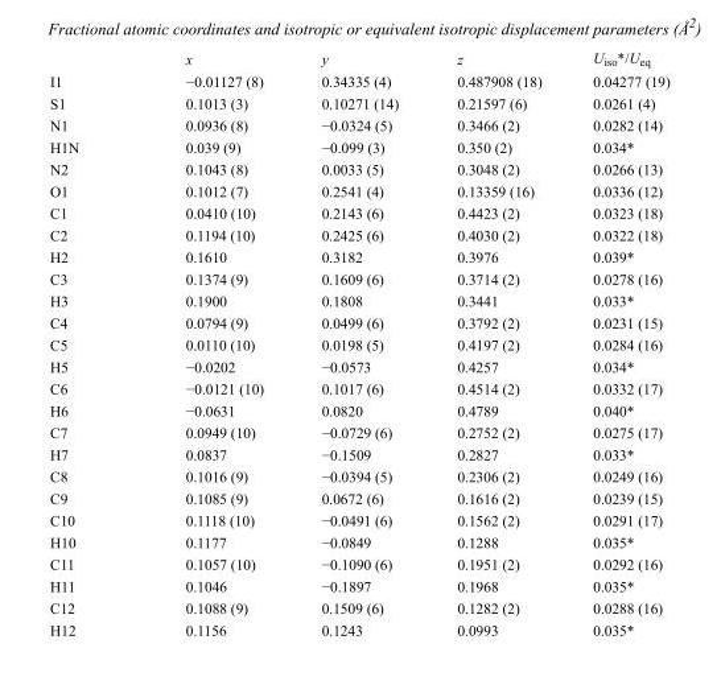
<table><thead><tr><td></td><td>x</td><td>y</td><td>z</td><td>U<sub>iso</sub>*/U<sub>eq</sub></td></tr></thead><tbody><tr><td>I1</td><td>−0.01127 (8)</td><td>0.34335 (4)</td><td>0.487908 (18)</td><td>0.04277 (19)</td></tr><tr><td>S1</td><td>0.1013 (3)</td><td>0.10271 (14)</td><td>0.21597 (6)</td><td>0.0261 (4)</td></tr><tr><td>N1</td><td>0.0936 (8)</td><td>−0.0324 (5)</td><td>0.3466 (2)</td><td>0.0282 (14)</td></tr><tr><td>H1N</td><td>0.039 (9)</td><td>−0.099 (3)</td><td>0.350 (2)</td><td>0.034*</td></tr><tr><td>N2</td><td>0.1043 (8)</td><td>0.0033 (5)</td><td>0.3048 (2)</td><td>0.0266 (13)</td></tr><tr><td>O1</td><td>0.1012 (7)</td><td>0.2541 (4)</td><td>0.13359 (16)</td><td>0.0336 (12)</td></tr><tr><td>C1</td><td>0.0410 (10)</td><td>0.2143 (6)</td><td>0.4423 (2)</td><td>0.0323 (18)</td></tr><tr><td>C2</td><td>0.1194 (10)</td><td>0.2425 (6)</td><td>0.4030 (2)</td><td>0.0322 (18)</td></tr><tr><td>H2</td><td>0.1610</td><td>0.3182</td><td>0.3976</td><td>0.039*</td></tr><tr><td>C3</td><td>0.1374 (9)</td><td>0.1609 (6)</td><td>0.3714 (2)</td><td>0.0278 (16)</td></tr><tr><td>H3</td><td>0.1900</td><td>0.1808</td><td>0.3441</td><td>0.033*</td></tr><tr><td>C4</td><td>0.0794 (9)</td><td>0.0499 (6)</td><td>0.3792 (2)</td><td>0.0231 (15)</td></tr><tr><td>C5</td><td>0.0110 (10)</td><td>0.0198 (5)</td><td>0.4197 (2)</td><td>0.0284 (16)</td></tr><tr><td>H5</td><td>−0.0202</td><td>−0.0573</td><td>0.4257</td><td>0.034*</td></tr><tr><td>C6</td><td>−0.0121 (10)</td><td>0.1017 (6)</td><td>0.4514 (2)</td><td>0.0332 (17)</td></tr><tr><td>H6</td><td>−0.0631</td><td>0.0820</td><td>0.4789</td><td>0.040*</td></tr><tr><td>C7</td><td>0.0949 (10)</td><td>−0.0729 (6)</td><td>0.2752 (2)</td><td>0.0275 (17)</td></tr><tr><td>H7</td><td>0.0837</td><td>−0.1509</td><td>0.2827</td><td>0.033*</td></tr><tr><td>C8</td><td>0.1016 (9)</td><td>−0.0394 (5)</td><td>0.2306 (2)</td><td>0.0249 (16)</td></tr><tr><td>C9</td><td>0.1085 (9)</td><td>0.0672 (6)</td><td>0.1616 (2)</td><td>0.0239 (15)</td></tr><tr><td>C10</td><td>0.1118 (10)</td><td>−0.0491 (6)</td><td>0.1562 (2)</td><td>0.0291 (17)</td></tr><tr><td>H10</td><td>0.1177</td><td>−0.0849</td><td>0.1288</td><td>0.035*</td></tr><tr><td>C11</td><td>0.1057 (10)</td><td>−0.1090 (6)</td><td>0.1951 (2)</td><td>0.0292 (16)</td></tr><tr><td>H11</td><td>0.1046</td><td>−0.1897</td><td>0.1968</td><td>0.035*</td></tr><tr><td>C12</td><td>0.1088 (9)</td><td>0.1509 (6)</td><td>0.1282 (2)</td><td>0.0288 (16)</td></tr><tr><td>H12</td><td>0.1156</td><td>0.1243</td><td>0.0993</td><td>0.035*</td></tr></tbody></table>